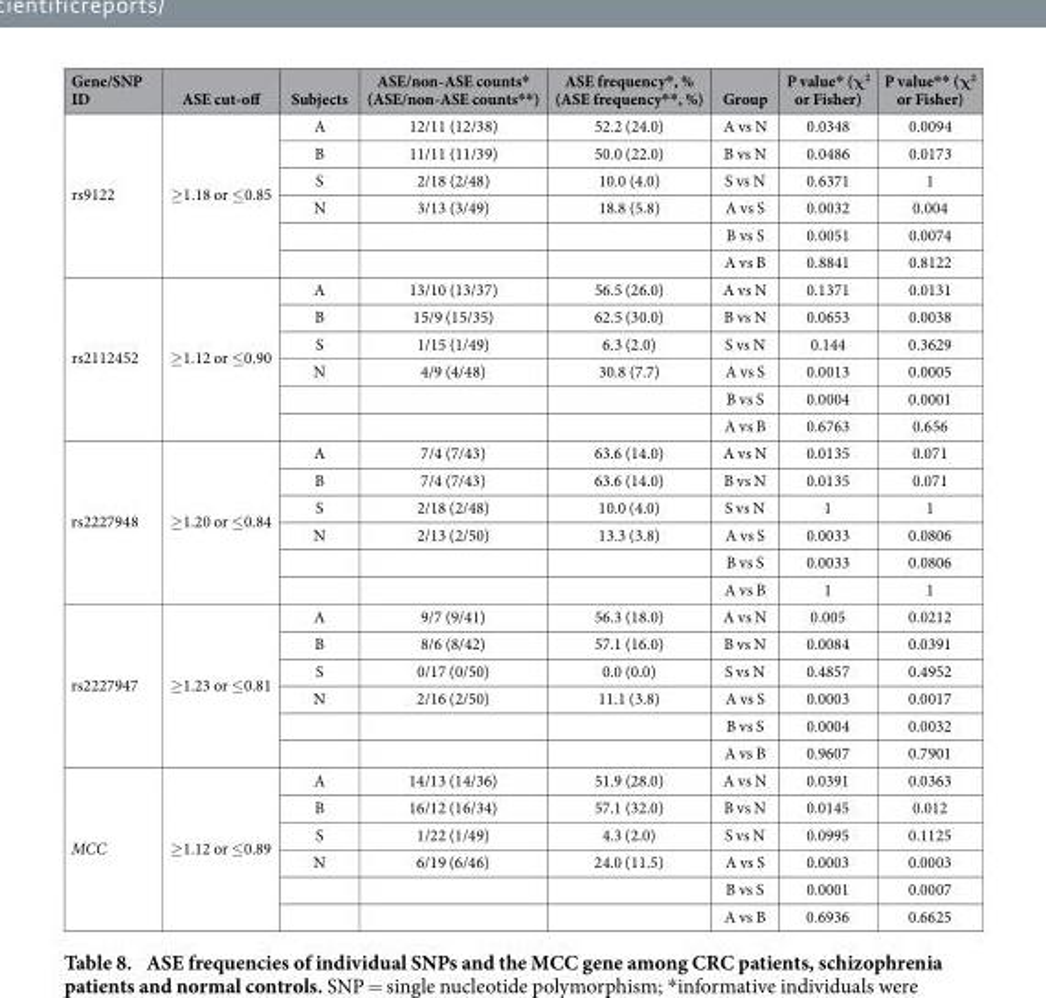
<table><thead><tr><td>Gene/SNP ID</td><td>ASE cut-off</td><td>Subjects</td><td>ASE/non-ASE counts* (ASE/non-ASE counts**)</td><td>ASE frequency*, % (ASE frequency**, %)</td><td>Group</td><td>P value* (χ<sup>2</sup> or Fisher)</td><td>P value** (χ<sup>2</sup> or Fisher)</td></tr></thead><tbody><tr><td rowspan="6">rs9122</td><td rowspan="6">≥ 1.18 or ≤ 0.85</td><td>A</td><td>12/11 (12/38)</td><td>52.2 (24.0)</td><td>A vs N</td><td>0.0348</td><td>0.0094</td></tr><tr><td>B</td><td>11/11 (11/39)</td><td>50.0 (22.0)</td><td>B vs N</td><td>0.0486</td><td>0.0173</td></tr><tr><td>S</td><td>2/18 (2/48)</td><td>10.0 (4.0)</td><td>S vs N</td><td>0.6371</td><td>1</td></tr><tr><td>N</td><td>3/13 (3/49)</td><td>18.8 (5.8)</td><td>A vs S</td><td>0.0032</td><td>0.004</td></tr><tr><td></td><td></td><td></td><td>B vs S</td><td>0.0051</td><td>0.0074</td></tr><tr><td></td><td></td><td></td><td>A vs B</td><td>0.8841</td><td>0.8122</td></tr><tr><td rowspan="6">rs2112452</td><td rowspan="6">≥ 1.12 or ≤ 0.90</td><td>A</td><td>13/10 (13/37)</td><td>56.5 (26.0)</td><td>A vs N</td><td>0.1371</td><td>0.0131</td></tr><tr><td>B</td><td>15/9 (15/35)</td><td>62.5 (30.0)</td><td>B vs N</td><td>0.0653</td><td>0.0038</td></tr><tr><td>S</td><td>1/15 (1/49)</td><td>6.3 (2.0)</td><td>S vs N</td><td>0.144</td><td>0.3629</td></tr><tr><td>N</td><td>4/9 (4/48)</td><td>30.8 (7.7)</td><td>A vs S</td><td>0.0013</td><td>0.0005</td></tr><tr><td></td><td></td><td></td><td>B vs S</td><td>0.0004</td><td>0.0001</td></tr><tr><td></td><td></td><td></td><td>A vs B</td><td>0.6763</td><td>0.656</td></tr><tr><td rowspan="6">rs2227948</td><td rowspan="6">≥ 1.20 or ≤ 0.84</td><td>A</td><td>7/4 (7/43)</td><td>63.6 (14.0)</td><td>A vs N</td><td>0.0135</td><td>0.071</td></tr><tr><td>B</td><td>7/4 (7/43)</td><td>63.6 (14.0)</td><td>B vs N</td><td>0.0135</td><td>0.071</td></tr><tr><td>S</td><td>2/18 (2/48)</td><td>10.0 (4.0)</td><td>S vs N</td><td>1</td><td>1</td></tr><tr><td>N</td><td>2/13 (2/50)</td><td>13.3 (3.8)</td><td>A vs S</td><td>0.0033</td><td>0.0806</td></tr><tr><td></td><td></td><td></td><td>B vs S</td><td>0.0033</td><td>0.0806</td></tr><tr><td></td><td></td><td></td><td>A vs B</td><td>1</td><td>1</td></tr><tr><td rowspan="6">rs2227947</td><td rowspan="6">≥ 1.23 or ≤ 0.81</td><td>A</td><td>9/7 (9/41)</td><td>56.3 (18.0)</td><td>A vs N</td><td>0.005</td><td>0.0212</td></tr><tr><td>B</td><td>8/6 (8/42)</td><td>57.1 (16.0)</td><td>B vs N</td><td>0.0084</td><td>0.0391</td></tr><tr><td>S</td><td>0/17 (0/50)</td><td>0.0 (0.0)</td><td>S vs N</td><td>0.4857</td><td>0.4952</td></tr><tr><td>N</td><td>2/16 (2/50)</td><td>11.1 (3.8)</td><td>A vs S</td><td>0.0003</td><td>0.0017</td></tr><tr><td></td><td></td><td></td><td>B vs S</td><td>0.0004</td><td>0.0032</td></tr><tr><td></td><td></td><td></td><td>A vs B</td><td>0.9607</td><td>0.7901</td></tr><tr><td rowspan="6">MCC</td><td rowspan="6">≥ 1.12 or ≤ 0.89</td><td>A</td><td>14/13 (14/36)</td><td>51.9 (28.0)</td><td>A vs N</td><td>0.0391</td><td>0.0363</td></tr><tr><td>B</td><td>16/12 (16/34)</td><td>57.1 (32.0)</td><td>B vs N</td><td>0.0145</td><td>0.012</td></tr><tr><td>S</td><td>1/22 (1/49)</td><td>4.3 (2.0)</td><td>S vs N</td><td>0.0995</td><td>0.1125</td></tr><tr><td>N</td><td>6/19 (6/46)</td><td>24.0 (11.5)</td><td>A vs S</td><td>0.0003</td><td>0.0003</td></tr><tr><td></td><td></td><td></td><td>B vs S</td><td>0.0001</td><td>0.0007</td></tr><tr><td></td><td></td><td></td><td>A vs B</td><td>0.6936</td><td>0.6625</td></tr></tbody></table>